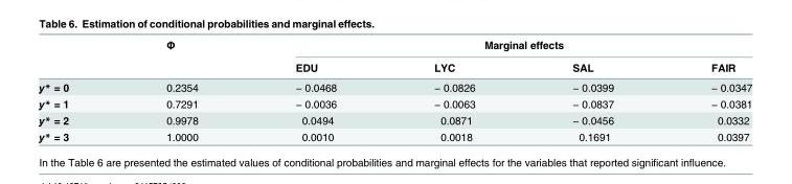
<table><thead><tr><td rowspan="2"></td><td rowspan="2">Φ</td><td colspan="4">Marginal effects</td></tr><tr><td>EDU</td><td>LYC</td><td>SAL</td><td>FAIR</td></tr></thead><tbody><tr><td>y* = 0</td><td>0.2354</td><td>− 0.0468</td><td>− 0.0826</td><td>− 0.0399</td><td>− 0.0347</td></tr><tr><td>y* = 1</td><td>0.7291</td><td>− 0.0036</td><td>− 0.0063</td><td>− 0.0837</td><td>− 0.0381</td></tr><tr><td>y* = 2</td><td>0.9978</td><td>0.0494</td><td>0.0871</td><td>− 0.0456</td><td>0.0332</td></tr><tr><td>y* = 3</td><td>1.0000</td><td>0.0010</td><td>0.0018</td><td>0.1691</td><td>0.0397</td></tr></tbody></table>